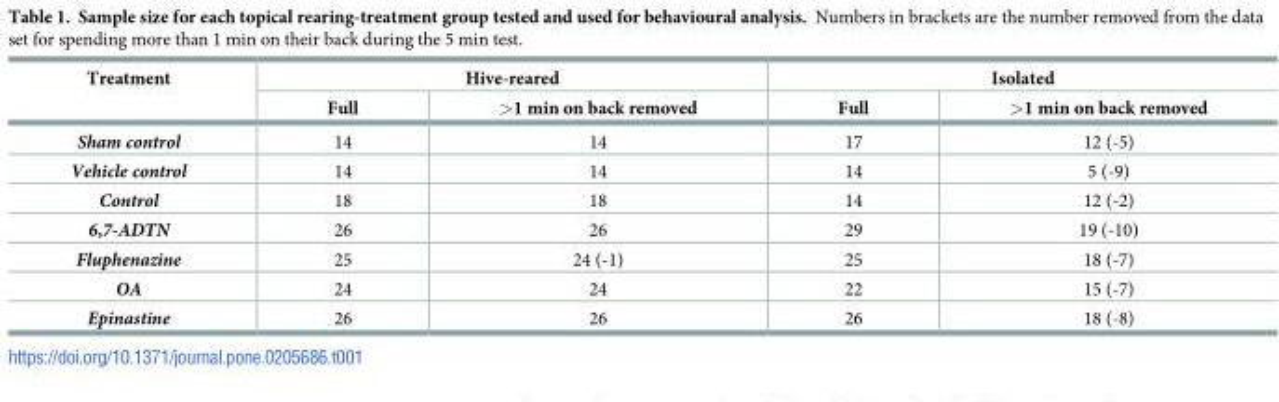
<table><thead><tr><td rowspan="2">Treatment</td><td colspan="2">Hive-reared</td><td colspan="2">Isolated</td></tr><tr><td>Full</td><td>&gt;1 min on back removed</td><td>Full</td><td>&gt;1 min on back removed</td></tr></thead><tbody><tr><td>Sham control</td><td>14</td><td>14</td><td>17</td><td>12 (-5)</td></tr><tr><td>Vehicle control</td><td>14</td><td>14</td><td>14</td><td>5 (-9)</td></tr><tr><td>Control</td><td>18</td><td>18</td><td>14</td><td>12 (-2)</td></tr><tr><td>6,7-ADTN</td><td>26</td><td>26</td><td>29</td><td>19 (-10)</td></tr><tr><td>Fluphenazine</td><td>25</td><td>24 (-1)</td><td>25</td><td>18 (-7)</td></tr><tr><td>OA</td><td>24</td><td>24</td><td>22</td><td>15 (-7)</td></tr><tr><td>Epinastine</td><td>26</td><td>26</td><td>26</td><td>18 (-8)</td></tr></tbody></table>